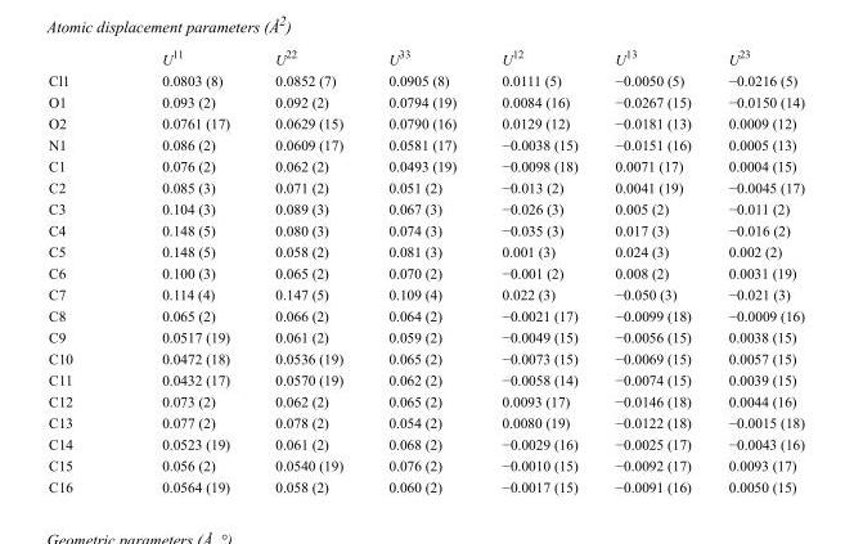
<table><thead><tr><td></td><td>U<sup>11</sup></td><td>U<sup>22</sup></td><td>U<sup>33</sup></td><td>U<sup>12</sup></td><td>U<sup>13</sup></td><td>U<sup>23</sup></td></tr></thead><tbody><tr><td>Cl1</td><td>0.0803 (8)</td><td>0.0852 (7)</td><td>0.0905 (8)</td><td>0.0111 (5)</td><td>−0.0050 (5)</td><td>−0.0216 (5)</td></tr><tr><td>O1</td><td>0.093 (2)</td><td>0.092 (2)</td><td>0.0794 (19)</td><td>0.0084 (16)</td><td>−0.0267 (15)</td><td>−0.0150 (14)</td></tr><tr><td>O2</td><td>0.0761 (17)</td><td>0.0629 (15)</td><td>0.0790 (16)</td><td>0.0129 (12)</td><td>−0.0181 (13)</td><td>0.0009 (12)</td></tr><tr><td>N1</td><td>0.086 (2)</td><td>0.0609 (17)</td><td>0.0581 (17)</td><td>−0.0038 (15)</td><td>−0.0151 (16)</td><td>0.0005 (13)</td></tr><tr><td>C1</td><td>0.076 (2)</td><td>0.062 (2)</td><td>0.0493 (19)</td><td>−0.0098 (18)</td><td>0.0071 (17)</td><td>0.0004 (15)</td></tr><tr><td>C2</td><td>0.085 (3)</td><td>0.071 (2)</td><td>0.051 (2)</td><td>−0.013 (2)</td><td>0.0041 (19)</td><td>−0.0045 (17)</td></tr><tr><td>C3</td><td>0.104 (3)</td><td>0.089 (3)</td><td>0.067 (3)</td><td>−0.026 (3)</td><td>0.005 (2)</td><td>−0.011 (2)</td></tr><tr><td>C4</td><td>0.148 (5)</td><td>0.080 (3)</td><td>0.074 (3)</td><td>−0.035 (3)</td><td>0.017 (3)</td><td>−0.016 (2)</td></tr><tr><td>C5</td><td>0.148 (5)</td><td>0.058 (2)</td><td>0.081 (3)</td><td>0.001 (3)</td><td>0.024 (3)</td><td>0.002 (2)</td></tr><tr><td>C6</td><td>0.100 (3)</td><td>0.065 (2)</td><td>0.070 (2)</td><td>−0.001 (2)</td><td>0.008 (2)</td><td>0.0031 (19)</td></tr><tr><td>C7</td><td>0.114 (4)</td><td>0.147 (5)</td><td>0.109 (4)</td><td>0.022 (3)</td><td>−0.050 (3)</td><td>−0.021 (3)</td></tr><tr><td>C8</td><td>0.065 (2)</td><td>0.066 (2)</td><td>0.064 (2)</td><td>−0.0021 (17)</td><td>−0.0099 (18)</td><td>−0.0009 (16)</td></tr><tr><td>C9</td><td>0.0517 (19)</td><td>0.061 (2)</td><td>0.059 (2)</td><td>−0.0049 (15)</td><td>−0.0056 (15)</td><td>0.0038 (15)</td></tr><tr><td>C10</td><td>0.0472 (18)</td><td>0.0536 (19)</td><td>0.065 (2)</td><td>−0.0073 (15)</td><td>−0.0069 (15)</td><td>0.0057 (15)</td></tr><tr><td>C11</td><td>0.0432 (17)</td><td>0.0570 (19)</td><td>0.062 (2)</td><td>−0.0058 (14)</td><td>−0.0074 (15)</td><td>0.0039 (15)</td></tr><tr><td>C12</td><td>0.073 (2)</td><td>0.062 (2)</td><td>0.065 (2)</td><td>0.0093 (17)</td><td>−0.0146 (18)</td><td>0.0044 (16)</td></tr><tr><td>C13</td><td>0.077 (2)</td><td>0.078 (2)</td><td>0.054 (2)</td><td>0.0080 (19)</td><td>−0.0122 (18)</td><td>−0.0015 (18)</td></tr><tr><td>C14</td><td>0.0523 (19)</td><td>0.061 (2)</td><td>0.068 (2)</td><td>−0.0029 (16)</td><td>−0.0025 (17)</td><td>−0.0043 (16)</td></tr><tr><td>C15</td><td>0.056 (2)</td><td>0.0540 (19)</td><td>0.076 (2)</td><td>−0.0010 (15)</td><td>−0.0092 (17)</td><td>0.0093 (17)</td></tr><tr><td>C16</td><td>0.0564 (19)</td><td>0.058 (2)</td><td>0.060 (2)</td><td>−0.0017 (15)</td><td>−0.0091 (16)</td><td>0.0050 (15)</td></tr></tbody></table>